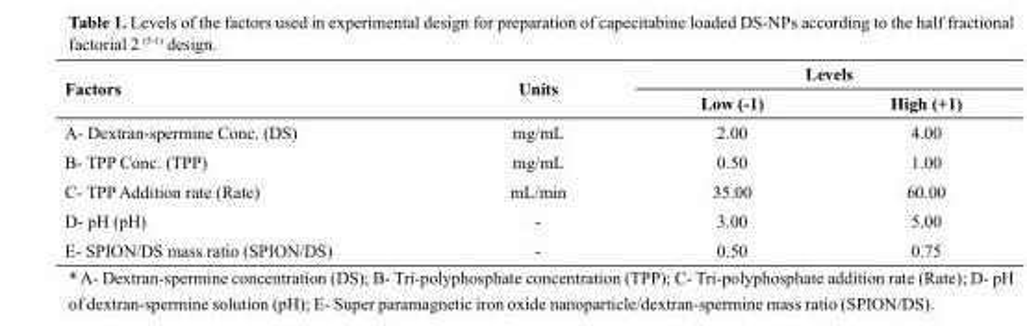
<table><thead><tr><td rowspan="2">Factors</td><td rowspan="2">Units</td><td colspan="2">Levels</td></tr><tr><td>Low (-1)</td><td>High (+1)</td></tr></thead><tbody><tr><td>A- Dextran-spermine Conc. (DS)</td><td>mg/mL</td><td>2.00</td><td>4.00</td></tr><tr><td>B- TPP Conc. (TPP)</td><td>mg/mL</td><td>0.50</td><td>1.00</td></tr><tr><td>C- TPP Addition rate (Rate)</td><td>mL/min</td><td>35.00</td><td>60.00</td></tr><tr><td>D- pH (pH)</td><td>-</td><td>3.00</td><td>5.00</td></tr><tr><td>E- SPION/DS mass ratio (SPION/DS)</td><td>-</td><td>0.50</td><td>0.75</td></tr></tbody></table>